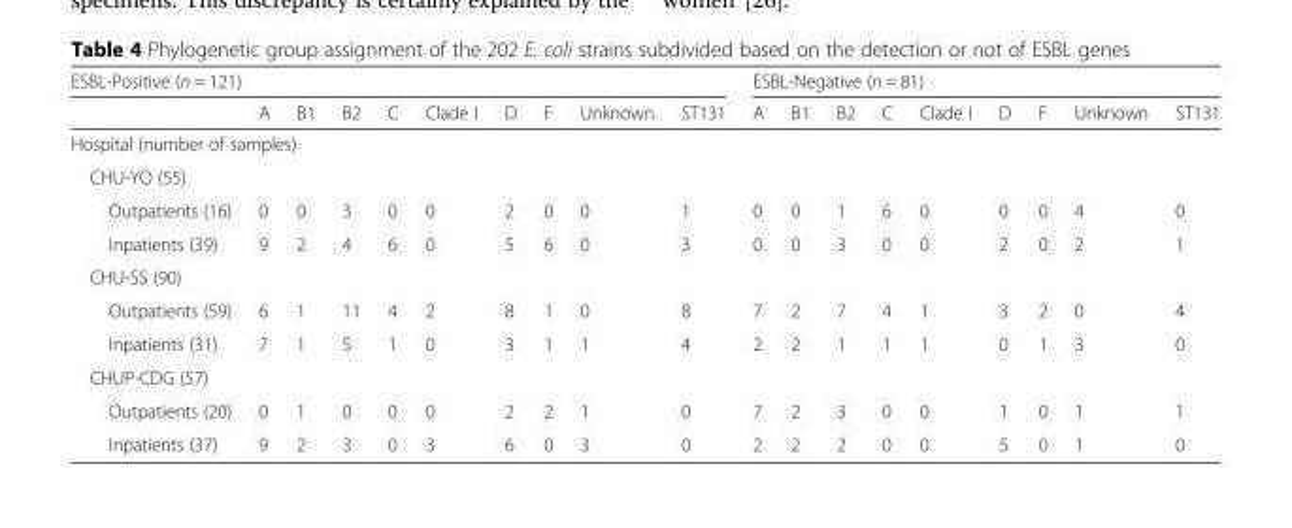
<table><thead><tr><td colspan="10">ESBL-Positive (n = 121)</td><td colspan="9">ESBL-Negative (n = 81)</td></tr><tr><td></td><td>A</td><td>B1</td><td>B2</td><td>C</td><td>Clade I</td><td>D</td><td>F</td><td>Unknown</td><td>ST131</td><td>A</td><td>B1</td><td>B2</td><td>C</td><td>Clade I</td><td>D</td><td>F</td><td>Unknown</td><td>ST131</td></tr></thead><tbody><tr><td colspan="19">Hospital (number of samples)</td></tr><tr><td colspan="19">CHU-YO (55)</td></tr><tr><td>Outpatients (16)</td><td>0</td><td>0</td><td>3</td><td>0</td><td>0</td><td>2</td><td>0</td><td>0</td><td>1</td><td>0</td><td>0</td><td>1</td><td>6</td><td>0</td><td>0</td><td>0</td><td>4</td><td>0</td></tr><tr><td>Inpatients (39)</td><td>9</td><td>2</td><td>4</td><td>6</td><td>0</td><td>5</td><td>6</td><td>0</td><td>3</td><td>0</td><td>0</td><td>3</td><td>0</td><td>0</td><td>2</td><td>0</td><td>2</td><td>1</td></tr><tr><td colspan="19">CHU-SS (90)</td></tr><tr><td>Outpatients (59)</td><td>6</td><td>1</td><td>11</td><td>4</td><td>2</td><td>8</td><td>1</td><td>0</td><td>8</td><td>7</td><td>2</td><td>7</td><td>4</td><td>1</td><td>3</td><td>2</td><td>0</td><td>4</td></tr><tr><td>Inpatients (31)</td><td>7</td><td>1</td><td>5</td><td>1</td><td>0</td><td>3</td><td>1</td><td>1</td><td>4</td><td>2</td><td>2</td><td>1</td><td>1</td><td>1</td><td>0</td><td>1</td><td>3</td><td>0</td></tr><tr><td colspan="19">CHUP-CDG (57)</td></tr><tr><td>Outpatients (20)</td><td>0</td><td>1</td><td>0</td><td>0</td><td>0</td><td>2</td><td>2</td><td>1</td><td>0</td><td>7</td><td>2</td><td>3</td><td>0</td><td>0</td><td>1</td><td>0</td><td>1</td><td>1</td></tr><tr><td>Inpatients (37)</td><td>9</td><td>2</td><td>3</td><td>0</td><td>3</td><td>6</td><td>0</td><td>3</td><td>0</td><td>2</td><td>2</td><td>2</td><td>0</td><td>0</td><td>5</td><td>0</td><td>1</td><td>0</td></tr></tbody></table>